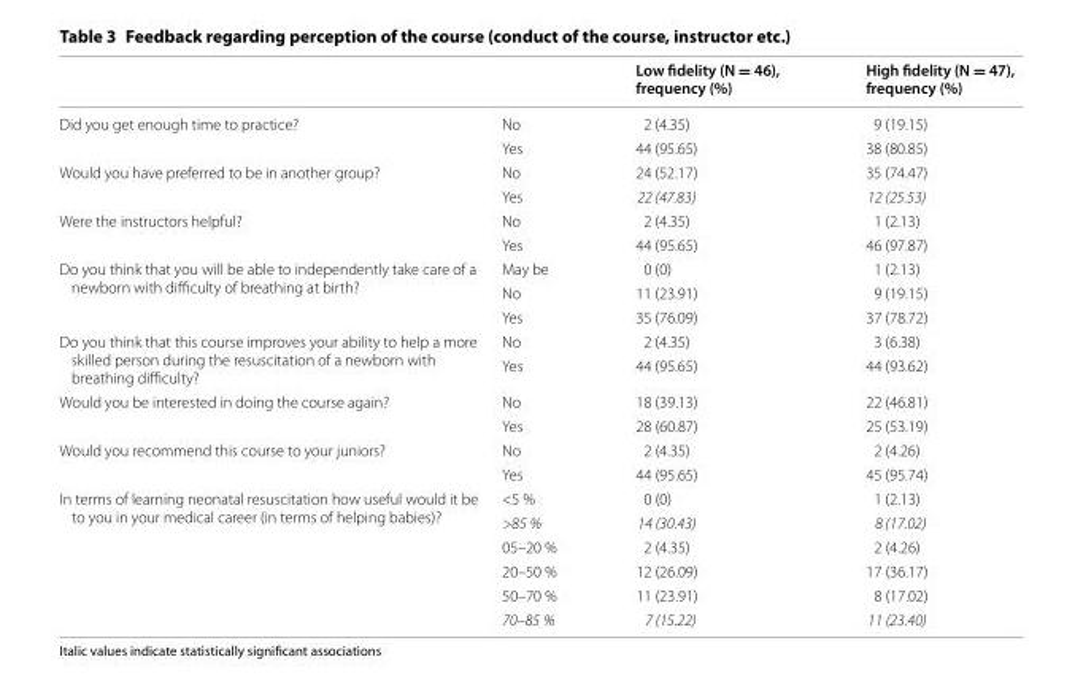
<table><thead><tr><td></td><td></td><td>Low fidelity (N = 46), frequency (%)</td><td>High fidelity (N = 47), frequency (%)</td></tr></thead><tbody><tr><td rowspan="2">Did you get enough time to practice?</td><td>No</td><td>2 (4.35)</td><td>9 (19.15)</td></tr><tr><td>Yes</td><td>44 (95.65)</td><td>38 (80.85)</td></tr><tr><td rowspan="2">Would you have preferred to be in another group?</td><td>No</td><td>24 (52.17)</td><td>35 (74.47)</td></tr><tr><td>Yes</td><td>22 (47.83)</td><td>12 (25.53)</td></tr><tr><td rowspan="2">Were the instructors helpful?</td><td>No</td><td>2 (4.35)</td><td>1 (2.13)</td></tr><tr><td>Yes</td><td>44 (95.65)</td><td>46 (97.87)</td></tr><tr><td rowspan="3">Do you think that you will be able to independently take care of a newborn with difficulty of breathing at birth?</td><td>May be</td><td>0 (0)</td><td>1 (2.13)</td></tr><tr><td>No</td><td>11 (23.91)</td><td>9 (19.15)</td></tr><tr><td>Yes</td><td>35 (76.09)</td><td>37 (78.72)</td></tr><tr><td rowspan="2">Do you think that this course improves your ability to help a more skilled person during the resuscitation of a newborn with breathing difficulty?</td><td>No</td><td>2 (4.35)</td><td>3 (6.38)</td></tr><tr><td>Yes</td><td>44 (95.65)</td><td>44 (93.62)</td></tr><tr><td rowspan="2">Would you be interested in doing the course again?</td><td>No</td><td>18 (39.13)</td><td>22 (46.81)</td></tr><tr><td>Yes</td><td>28 (60.87)</td><td>25 (53.19)</td></tr><tr><td rowspan="2">Would you recommend this course to your juniors?</td><td>No</td><td>2 (4.35)</td><td>2 (4.26)</td></tr><tr><td>Yes</td><td>44 (95.65)</td><td>45 (95.74)</td></tr><tr><td rowspan="6">In terms of learning neonatal resuscitation how useful would it be to you in your medical career (in terms of helping babies)?</td><td>&lt;5 %</td><td>0 (0)</td><td>1 (2.13)</td></tr><tr><td>&gt;85 %</td><td>14 (30.43)</td><td>8 (17.02)</td></tr><tr><td>05–20 %</td><td>2 (4.35)</td><td>2 (4.26)</td></tr><tr><td>20–50 %</td><td>12 (26.09)</td><td>17 (36.17)</td></tr><tr><td>50–70 %</td><td>11 (23.91)</td><td>8 (17.02)</td></tr><tr><td>70–85 %</td><td>7 (15.22)</td><td>11 (23.40)</td></tr></tbody></table>